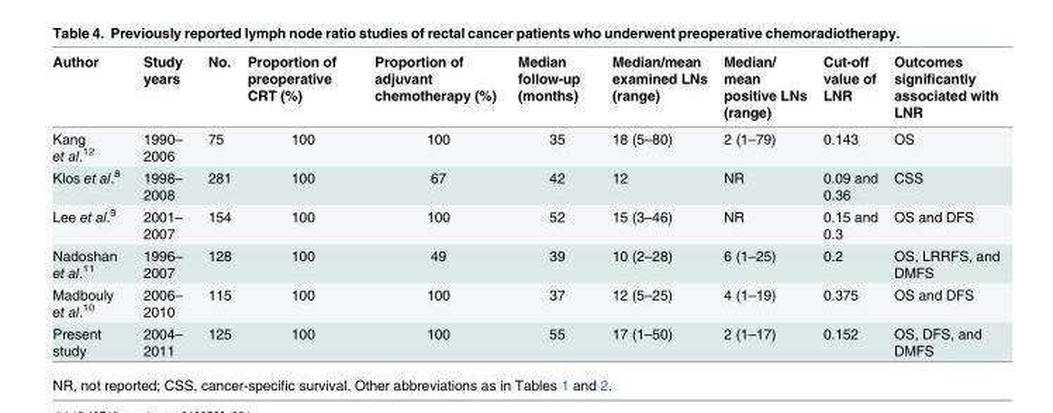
<table><thead><tr><td>Author</td><td>Study years</td><td>No.</td><td>Proportion of preoperative CRT (%)</td><td>Proportion of adjuvant chemotherapy (%)</td><td>Median follow-up (months)</td><td>Median/mean examined LNs (range)</td><td>Median/ mean positive LNs (range)</td><td>Cut-off value of LNR</td><td>Outcomes significantly associated with LNR</td></tr></thead><tbody><tr><td>Kang et al.<sup>12</sup></td><td>1990– 2006</td><td>75</td><td>100</td><td>100</td><td>35</td><td>18 (5–80)</td><td>2 (1–79)</td><td>0.143</td><td>OS</td></tr><tr><td>Klos et al.<sup>8</sup></td><td>1998– 2008</td><td>281</td><td>100</td><td>67</td><td>42</td><td>12</td><td>NR</td><td>0.09 and 0.36</td><td>CSS</td></tr><tr><td>Lee et al.<sup>9</sup></td><td>2001– 2007</td><td>154</td><td>100</td><td>100</td><td>52</td><td>15 (3–46)</td><td>NR</td><td>0.15 and 0.3</td><td>OS and DFS</td></tr><tr><td>Nadoshan et al.<sup>11</sup></td><td>1996– 2007</td><td>128</td><td>100</td><td>49</td><td>39</td><td>10 (2–28)</td><td>6 (1–25)</td><td>0.2</td><td>OS, LRRFS, and DMFS</td></tr><tr><td>Madbouly et al.<sup>10</sup></td><td>2006– 2010</td><td>115</td><td>100</td><td>100</td><td>37</td><td>12 (5–25)</td><td>4 (1–19)</td><td>0.375</td><td>OS and DFS</td></tr><tr><td>Present study</td><td>2004– 2011</td><td>125</td><td>100</td><td>100</td><td>55</td><td>17 (1–50)</td><td>2 (1–17)</td><td>0.152</td><td>OS, DFS, and DMFS</td></tr></tbody></table>